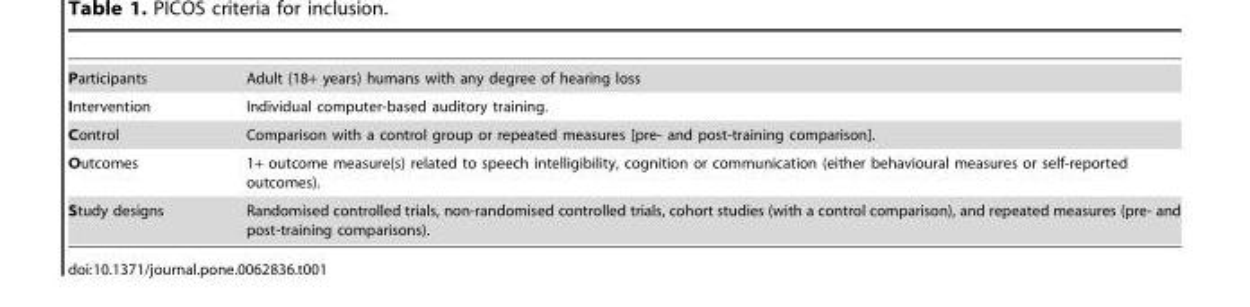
<table><tbody><tr><td>Participants</td><td>Adult (18+ years) humans with any degree of hearing loss</td></tr><tr><td>Intervention</td><td>Individual computer-based auditory training.</td></tr><tr><td>Control</td><td>Comparison with a control group or repeated measures [pre- and post-training comparison].</td></tr><tr><td>Outcomes</td><td>1+ outcome measure(s) related to speech intelligibility, cognition or communication (either behavioural measures or self-reported outcomes).</td></tr><tr><td>Study designs</td><td>Randomised controlled trials, non-randomised controlled trials, cohort studies (with a control comparison), and repeated measures (pre- and post-training comparisons).</td></tr></tbody></table>